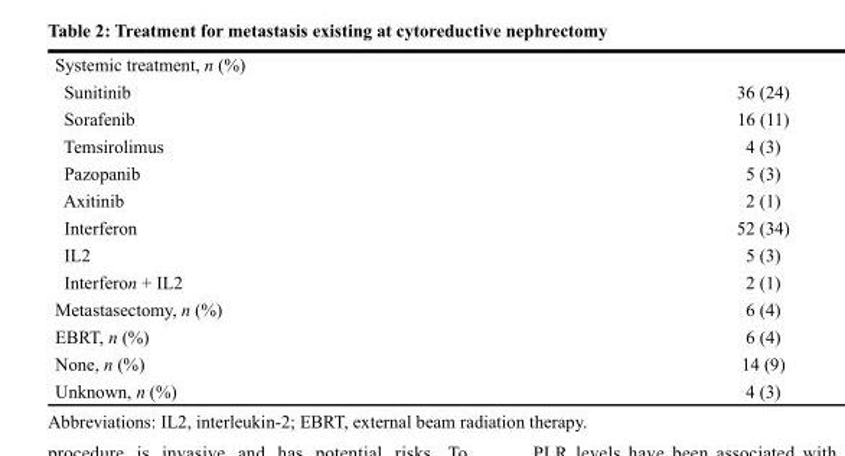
<table><thead><tr><td>Systemic treatment, n (%)</td><td></td></tr></thead><tbody><tr><td>Sunitinib</td><td>36 (24)</td></tr><tr><td>Sorafenib</td><td>16 (11)</td></tr><tr><td>Temsirolimus</td><td>4 (3)</td></tr><tr><td>Pazopanib</td><td>5 (3)</td></tr><tr><td>Axitinib</td><td>2 (1)</td></tr><tr><td>Interferon</td><td>52 (34)</td></tr><tr><td>IL2</td><td>5 (3)</td></tr><tr><td>Interferon + IL2</td><td>2 (1)</td></tr><tr><td>Metastasectomy, n (%)</td><td>6 (4)</td></tr><tr><td>EBRT, n (%)</td><td>6 (4)</td></tr><tr><td>None, n (%)</td><td>14 (9)</td></tr><tr><td>Unknown, n (%)</td><td>4 (3)</td></tr></tbody></table>